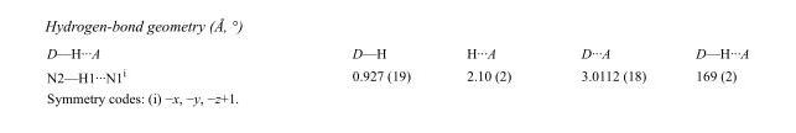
<table><tbody><tr><td>D—H···A</td><td>D—H</td><td>H···A</td><td>D···A</td><td>D—H···A</td></tr><tr><td>N2—H1···N1<sup>i</sup></td><td>0.927 (19)</td><td>2.10 (2)</td><td>3.0112 (18)</td><td>169 (2)</td></tr></tbody></table>